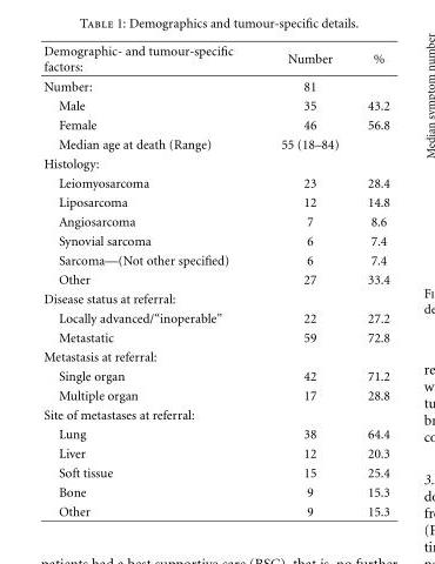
<table><thead><tr><td>Demographic- and tumour-specific factors:</td><td>Number</td><td>%</td></tr></thead><tbody><tr><td>Number:</td><td>81</td><td></td></tr><tr><td>Male</td><td>35</td><td>43.2</td></tr><tr><td>Female</td><td>46</td><td>56.8</td></tr><tr><td>Median age at death (Range)</td><td>55 (18–84)</td><td></td></tr><tr><td colspan="3">Histology:</td></tr><tr><td>Leiomyosarcoma</td><td>23</td><td>28.4</td></tr><tr><td>Liposarcoma</td><td>12</td><td>14.8</td></tr><tr><td>Angiosarcoma</td><td>7</td><td>8.6</td></tr><tr><td>Synovial sarcoma</td><td>6</td><td>7.4</td></tr><tr><td>Sarcoma—(Not other specified)</td><td>6</td><td>7.4</td></tr><tr><td>Other</td><td>27</td><td>33.4</td></tr><tr><td colspan="3">Disease status at referral:</td></tr><tr><td>Locally advanced/“inoperable”</td><td>22</td><td>27.2</td></tr><tr><td>Metastatic</td><td>59</td><td>72.8</td></tr><tr><td colspan="3">Metastasis at referral:</td></tr><tr><td>Single organ</td><td>42</td><td>71.2</td></tr><tr><td>Multiple organ</td><td>17</td><td>28.8</td></tr><tr><td colspan="3">Site of metastases at referral:</td></tr><tr><td>Lung</td><td>38</td><td>64.4</td></tr><tr><td>Liver</td><td>12</td><td>20.3</td></tr><tr><td>Soft tissue</td><td>15</td><td>25.4</td></tr><tr><td>Bone</td><td>9</td><td>15.3</td></tr><tr><td>Other</td><td>9</td><td>15.3</td></tr></tbody></table>